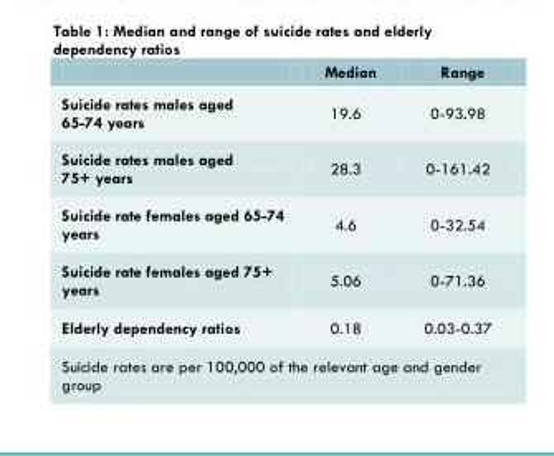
<table><thead><tr><td></td><td>Median</td><td>Range</td></tr></thead><tbody><tr><td>Suicide rates males aged 65-74 years</td><td>19.6</td><td>0-93.98</td></tr><tr><td>Suicide rates males aged 75+ years</td><td>28.3</td><td>0-161.42</td></tr><tr><td>Suicide rate females aged 65-74 years</td><td>4.6</td><td>0-32.54</td></tr><tr><td>Suicide rate females aged 75+ years</td><td>5.06</td><td>0-71.36</td></tr><tr><td>Elderly dependency ratios</td><td>0.18</td><td>0.03-0.37</td></tr><tr><td colspan="3">Suicide rates are per 100,000 of the relevant age and gender group</td></tr></tbody></table>